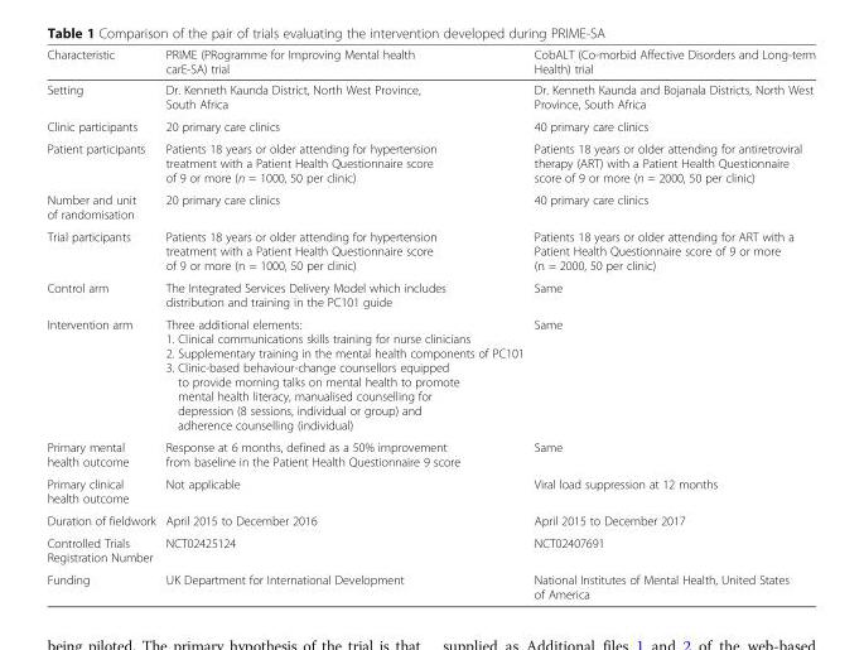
<table><thead><tr><td>Characteristic</td><td>PRIME (PRogramme for Improving Mental health carE-SA) trial</td><td>CobALT (Co-morbid Affective Disorders and Long-term Health) trial</td></tr></thead><tbody><tr><td>Setting</td><td>Dr. Kenneth Kaunda District, North West Province, South Africa</td><td>Dr. Kenneth Kaunda and Bojanala Districts, North West Province, South Africa</td></tr><tr><td>Clinic participants</td><td>20 primary care clinics</td><td>40 primary care clinics</td></tr><tr><td>Patient participants</td><td>Patients 18 years or older attending for hypertension treatment with a Patient Health Questionnaire score of 9 or more (n = 1000, 50 per clinic)</td><td>Patients 18 years or older attending for antiretroviral therapy (ART) with a Patient Health Questionnaire score of 9 or more (n = 2000, 50 per clinic)</td></tr><tr><td>Number and unit of randomisation</td><td>20 primary care clinics</td><td>40 primary care clinics</td></tr><tr><td>Trial participants</td><td>Patients 18 years or older attending for hypertension treatment with a Patient Health Questionnaire score of 9 or more (n = 1000, 50 per clinic)</td><td>Patients 18 years or older attending for ART with a Patient Health Questionnaire score of 9 or more (n = 2000, 50 per clinic)</td></tr><tr><td>Control arm</td><td>The Integrated Services Delivery Model which includes distribution and training in the PC101 guide</td><td>Same</td></tr><tr><td>Intervention arm</td><td>Three additional elements: 1. Clinical communications skills training for nurse clinicians 2. Supplementary training in the mental health components of PC101 3. Clinic-based behaviour-change counsellors equipped to provide morning talks on mental health to promote mental health literacy, manualised counselling for depression (8 sessions, individual or group) and adherence counselling (individual)</td><td>Same</td></tr><tr><td>Primary mental health outcome</td><td>Response at 6 months, defined as a 50% improvement from baseline in the Patient Health Questionnaire 9 score</td><td>Same</td></tr><tr><td>Primary clinical health outcome</td><td>Not applicable</td><td>Viral load suppression at 12 months</td></tr><tr><td>Duration of fieldwork</td><td>April 2015 to December 2016</td><td>April 2015 to December 2017</td></tr><tr><td>Controlled Trials Registration Number</td><td>NCT02425124</td><td>NCT02407691</td></tr><tr><td>Funding</td><td>UK Department for International Development</td><td>National Institutes of Mental Health, United States of America</td></tr></tbody></table>